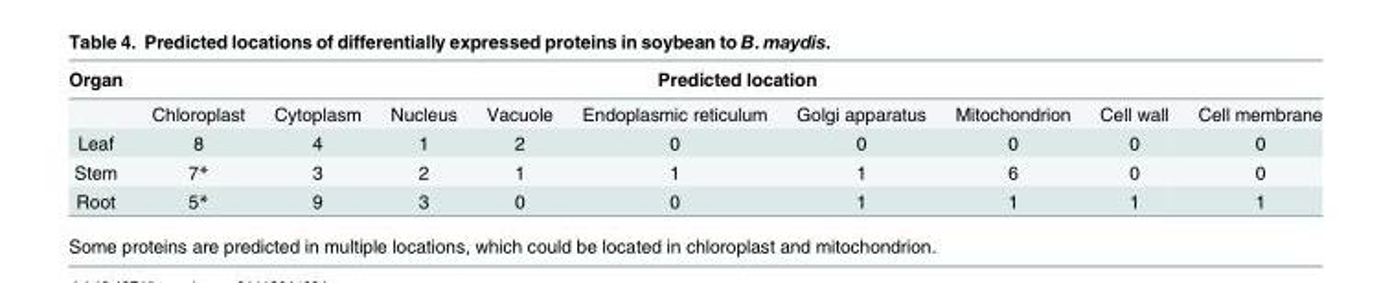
<table><thead><tr><td rowspan="2">Organ</td><td colspan="9">Predicted location</td></tr><tr><td>Chloroplast</td><td>Cytoplasm</td><td>Nucleus</td><td>Vacuole</td><td>Endoplasmic reticulum</td><td>Golgi apparatus</td><td>Mitochondrion</td><td>Cell wall</td><td>Cell membrane</td></tr></thead><tbody><tr><td>Leaf</td><td>8</td><td>4</td><td>1</td><td>2</td><td>0</td><td>0</td><td>0</td><td>0</td><td>0</td></tr><tr><td>Stem</td><td>7*</td><td>3</td><td>2</td><td>1</td><td>1</td><td>1</td><td>6</td><td>0</td><td>0</td></tr><tr><td>Root</td><td>5*</td><td>9</td><td>3</td><td>0</td><td>0</td><td>1</td><td>1</td><td>1</td><td>1</td></tr></tbody></table>